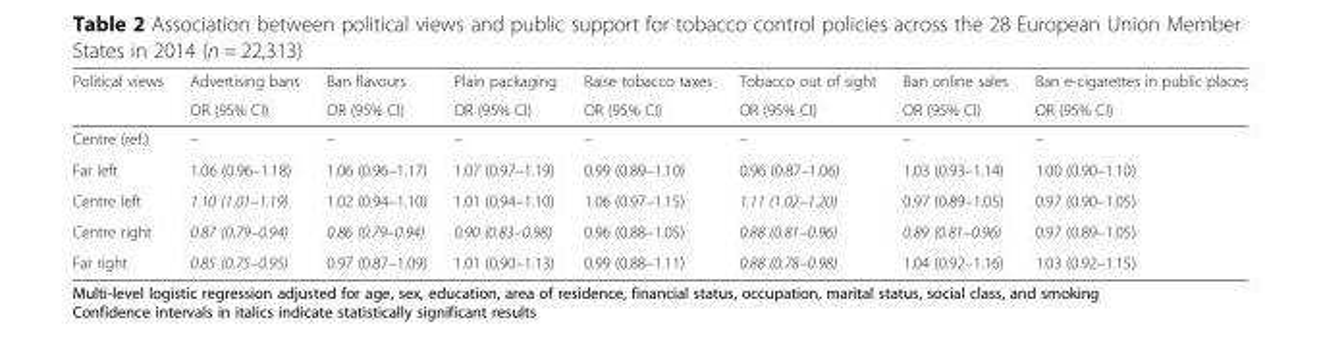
<table><thead><tr><td rowspan="2">Political views</td><td rowspan="2">Advertising bans OR (95% CI)</td><td rowspan="2">Ban flavours OR (95% CI)</td><td rowspan="2">Plain packaging OR (95% CI)</td><td rowspan="2">Raise tobacco taxes OR (95% CI)</td><td rowspan="2">Tobacco out of sight OR (95% CI)</td><td rowspan="2">Ban online sales OR (95% CI)</td><td rowspan="2">Ban e-cigarettes in public places OR (95% CI)</td></tr><tr></tr></thead><tbody><tr><td>Centre (ref.)</td><td>–</td><td>–</td><td>–</td><td>–</td><td>–</td><td>–</td><td>–</td></tr><tr><td>Far left</td><td>1.06 (0.96–1.18)</td><td>1.06 (0.96–1.17)</td><td>1.07 (0.97–1.19)</td><td>0.99 (0.89–1.10)</td><td>0.96 (0.87–1.06)</td><td>1.03 (0.93–1.14)</td><td>1.00 (0.90–1.10)</td></tr><tr><td>Centre left</td><td>1.10 (1.01–1.19)</td><td>1.02 (0.94–1.10)</td><td>1.01 (0.94–1.10)</td><td>1.06 (0.97–1.15)</td><td>1.11 (1.02–1.20)</td><td>0.97 (0.89–1.05)</td><td>0.97 (0.90–1.05)</td></tr><tr><td>Centre right</td><td>0.87 (0.79–0.94)</td><td>0.86 (0.79–0.94)</td><td>0.90 (0.83–0.98)</td><td>0.96 (0.88–1.05)</td><td>0.88 (0.81–0.96)</td><td>0.89 (0.81–0.96)</td><td>0.97 (0.89–1.05)</td></tr><tr><td>Far right</td><td>0.85 (0.75–0.95)</td><td>0.97 (0.87–1.09)</td><td>1.01 (0.90–1.13)</td><td>0.99 (0.88–1.11)</td><td>0.88 (0.78–0.98)</td><td>1.04 (0.92–1.16)</td><td>1.03 (0.92–1.15)</td></tr></tbody></table>